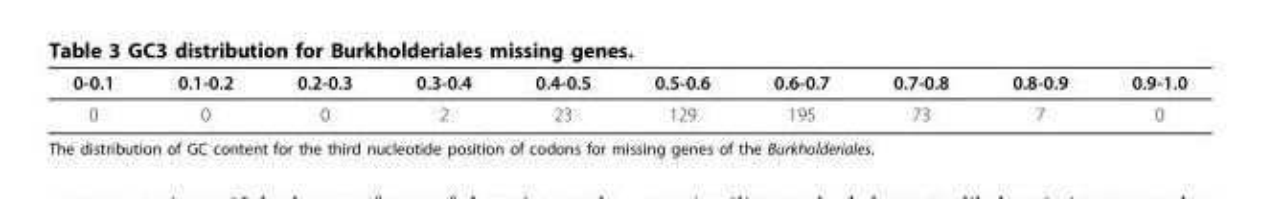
<table><thead><tr><td>0-0.1</td><td>0.1-0.2</td><td>0.2-0.3</td><td>0.3-0.4</td><td>0.4-0.5</td><td>0.5-0.6</td><td>0.6-0.7</td><td>0.7-0.8</td><td>0.8-0.9</td><td>0.9-1.0</td></tr></thead><tbody><tr><td>0</td><td>0</td><td>0</td><td>2</td><td>23</td><td>129</td><td>195</td><td>73</td><td>7</td><td>0</td></tr></tbody></table>